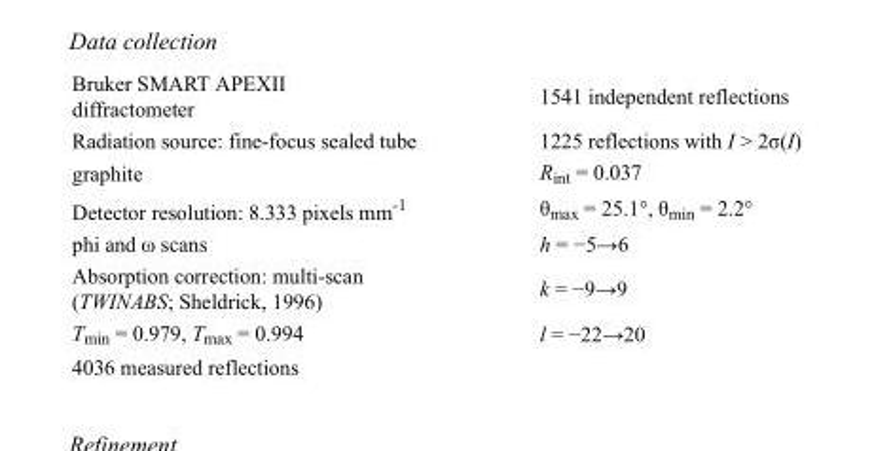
<table><tbody><tr><td>Bruker SMART APEXII diffractometer</td><td>1541 independent reflections</td></tr><tr><td>Radiation source: fine-focus sealed tube</td><td>1225 reflections with I &gt; 2σ(I)</td></tr><tr><td>graphite</td><td>R<sub>int</sub> = 0.037</td></tr><tr><td>Detector resolution: 8.333 pixels mm<sup>-1</sup></td><td>θ<sub>max</sub> = 25.1°, θ<sub>min</sub> = 2.2°</td></tr><tr><td>phi and ω scans</td><td>h = −5→6</td></tr><tr><td>Absorption correction: multi-scan (TWINABS; Sheldrick, 1996)</td><td>k = −9→9</td></tr><tr><td>T<sub>min</sub> = 0.979, T<sub>max</sub> = 0.994</td><td>l = −22→20</td></tr><tr><td>4036 measured reflections</td><td></td></tr></tbody></table>